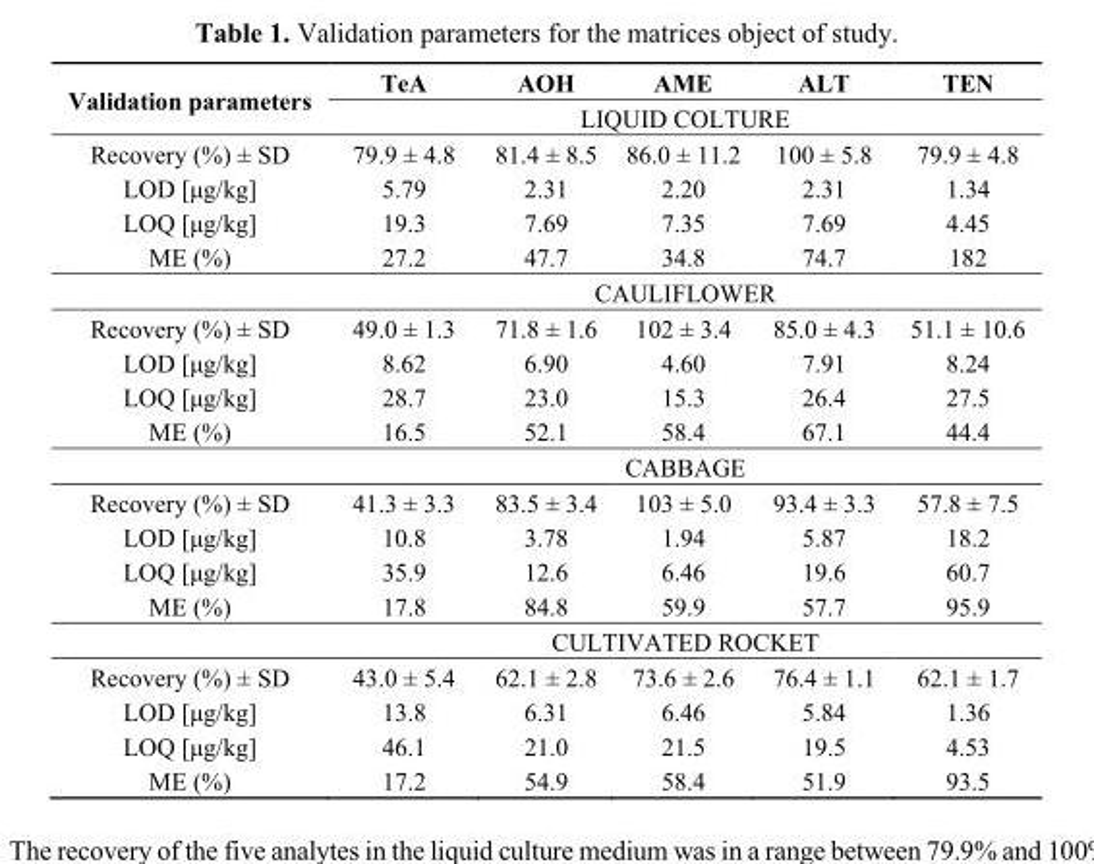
<table><thead><tr><td rowspan="2">Validation parameters</td><td>TeA</td><td>AOH</td><td>AME</td><td>ALT</td><td>TEN</td></tr><tr><td colspan="5">LIQUID COLTURE</td></tr></thead><tbody><tr><td>Recovery (%) ± SD</td><td>79.9 ± 4.8</td><td>81.4 ± 8.5</td><td>86.0 ± 11.2</td><td>100 ± 5.8</td><td>79.9 ± 4.8</td></tr><tr><td>LOD [μg/kg]</td><td>5.79</td><td>2.31</td><td>2.20</td><td>2.31</td><td>1.34</td></tr><tr><td>LOQ [μg/kg]</td><td>19.3</td><td>7.69</td><td>7.35</td><td>7.69</td><td>4.45</td></tr><tr><td rowspan="2">ME (%)</td><td>27.2</td><td>47.7</td><td>34.8</td><td>74.7</td><td>182</td></tr><tr><td colspan="5">CAULIFLOWER</td></tr><tr><td>Recovery (%) ± SD</td><td>49.0 ± 1.3</td><td>71.8 ± 1.6</td><td>102 ± 3.4</td><td>85.0 ± 4.3</td><td>51.1 ± 10.6</td></tr><tr><td>LOD [μg/kg]</td><td>8.62</td><td>6.90</td><td>4.60</td><td>7.91</td><td>8.24</td></tr><tr><td>LOQ [μg/kg]</td><td>28.7</td><td>23.0</td><td>15.3</td><td>26.4</td><td>27.5</td></tr><tr><td rowspan="2">ME (%)</td><td>16.5</td><td>52.1</td><td>58.4</td><td>67.1</td><td>44.4</td></tr><tr><td colspan="5">CABBAGE</td></tr><tr><td>Recovery (%) ± SD</td><td>41.3 ± 3.3</td><td>83.5 ± 3.4</td><td>103 ± 5.0</td><td>93.4 ± 3.3</td><td>57.8 ± 7.5</td></tr><tr><td>LOD [μg/kg]</td><td>10.8</td><td>3.78</td><td>1.94</td><td>5.87</td><td>18.2</td></tr><tr><td>LOQ [μg/kg]</td><td>35.9</td><td>12.6</td><td>6.46</td><td>19.6</td><td>60.7</td></tr><tr><td rowspan="2">ME (%)</td><td>17.8</td><td>84.8</td><td>59.9</td><td>57.7</td><td>95.9</td></tr><tr><td colspan="5">CULTIVATED ROCKET</td></tr><tr><td>Recovery (%) ± SD</td><td>43.0 ± 5.4</td><td>62.1 ± 2.8</td><td>73.6 ± 2.6</td><td>76.4 ± 1.1</td><td>62.1 ± 1.7</td></tr><tr><td>LOD [μg/kg]</td><td>13.8</td><td>6.31</td><td>6.46</td><td>5.84</td><td>1.36</td></tr><tr><td>LOQ [μg/kg]</td><td>46.1</td><td>21.0</td><td>21.5</td><td>19.5</td><td>4.53</td></tr><tr><td>ME (%)</td><td>17.2</td><td>54.9</td><td>58.4</td><td>51.9</td><td>93.5</td></tr></tbody></table>